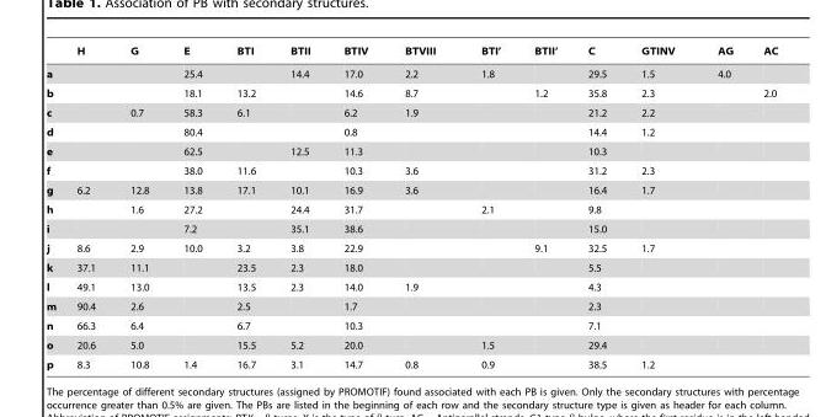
<table><thead><tr><td></td><td>H</td><td>G</td><td>E</td><td>BTI</td><td>BTII</td><td>BTIV</td><td>BTVIII</td><td>BTI’</td><td>BTII’</td><td>C</td><td>GTINV</td><td>AG</td><td>AC</td></tr></thead><tbody><tr><td>a</td><td></td><td></td><td>25.4</td><td></td><td>14.4</td><td>17.0</td><td>2.2</td><td>1.8</td><td></td><td>29.5</td><td>1.5</td><td>4.0</td><td></td></tr><tr><td>b</td><td></td><td></td><td>18.1</td><td>13.2</td><td></td><td>14.6</td><td>8.7</td><td></td><td>1.2</td><td>35.8</td><td>2.3</td><td></td><td>2.0</td></tr><tr><td>c</td><td></td><td>0.7</td><td>58.3</td><td>6.1</td><td></td><td>6.2</td><td>1.9</td><td></td><td></td><td>21.2</td><td>2.2</td><td></td><td></td></tr><tr><td>d</td><td></td><td></td><td>80.4</td><td></td><td></td><td>0.8</td><td></td><td></td><td></td><td>14.4</td><td>1.2</td><td></td><td></td></tr><tr><td>e</td><td></td><td></td><td>62.5</td><td></td><td>12.5</td><td>11.3</td><td></td><td></td><td></td><td>10.3</td><td></td><td></td><td></td></tr><tr><td>f</td><td></td><td></td><td>38.0</td><td>11.6</td><td></td><td>10.3</td><td>3.6</td><td></td><td></td><td>31.2</td><td>2.3</td><td></td><td></td></tr><tr><td>g</td><td>6.2</td><td>12.8</td><td>13.8</td><td>17.1</td><td>10.1</td><td>16.9</td><td>3.6</td><td></td><td></td><td>16.4</td><td>1.7</td><td></td><td></td></tr><tr><td>h</td><td></td><td>1.6</td><td>27.2</td><td></td><td>24.4</td><td>31.7</td><td></td><td>2.1</td><td></td><td>9.8</td><td></td><td></td><td></td></tr><tr><td>i</td><td></td><td></td><td>7.2</td><td></td><td>35.1</td><td>38.6</td><td></td><td></td><td></td><td>15.0</td><td></td><td></td><td></td></tr><tr><td>j</td><td>8.6</td><td>2.9</td><td>10.0</td><td>3.2</td><td>3.8</td><td>22.9</td><td></td><td></td><td>9.1</td><td>32.5</td><td>1.7</td><td></td><td></td></tr><tr><td>k</td><td>37.1</td><td>11.1</td><td></td><td>23.5</td><td>2.3</td><td>18.0</td><td></td><td></td><td></td><td>5.5</td><td></td><td></td><td></td></tr><tr><td>l</td><td>49.1</td><td>13.0</td><td></td><td>13.5</td><td>2.3</td><td>14.0</td><td>1.9</td><td></td><td></td><td>4.3</td><td></td><td></td><td></td></tr><tr><td>m</td><td>90.4</td><td>2.6</td><td></td><td>2.5</td><td></td><td>1.7</td><td></td><td></td><td></td><td>2.3</td><td></td><td></td><td></td></tr><tr><td>n</td><td>66.3</td><td>6.4</td><td></td><td>6.7</td><td></td><td>10.3</td><td></td><td></td><td></td><td>7.1</td><td></td><td></td><td></td></tr><tr><td>o</td><td>20.6</td><td>5.0</td><td></td><td>15.5</td><td>5.2</td><td>20.0</td><td></td><td>1.5</td><td></td><td>29.4</td><td></td><td></td><td></td></tr><tr><td>p</td><td>8.3</td><td>10.8</td><td>1.4</td><td>16.7</td><td>3.1</td><td>14.7</td><td>0.8</td><td>0.9</td><td></td><td>38.5</td><td>1.2</td><td></td><td></td></tr></tbody></table>